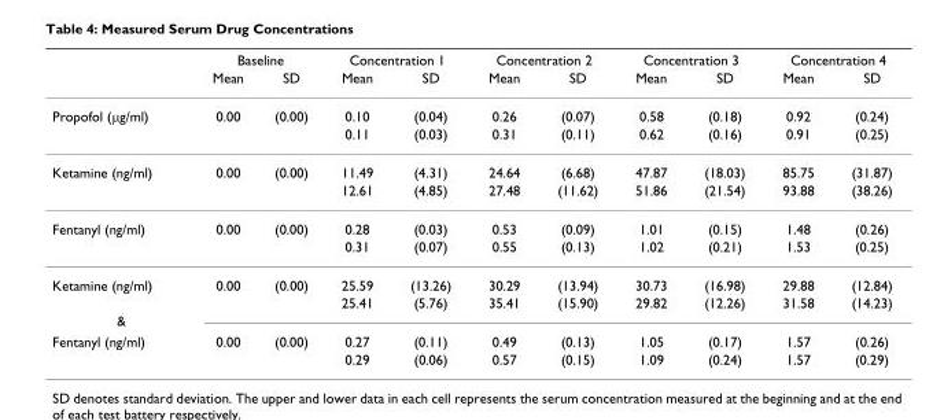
<table><thead><tr><td rowspan="2"></td><td colspan="2">Baseline</td><td colspan="2">Concentration 1</td><td colspan="2">Concentration 2</td><td colspan="2">Concentration 3</td><td colspan="2">Concentration 4</td></tr><tr><td>Mean</td><td>SD</td><td>Mean</td><td>SD</td><td>Mean</td><td>SD</td><td>Mean</td><td>SD</td><td>Mean</td><td>SD</td></tr></thead><tbody><tr><td rowspan="2">Propofol (µg/ml)</td><td>0.00</td><td>(0.00)</td><td>0.10</td><td>(0.04)</td><td>0.26</td><td>(0.07)</td><td>0.58</td><td>(0.18)</td><td>0.92</td><td>(0.24)</td></tr><tr><td></td><td></td><td>0.11</td><td>(0.03)</td><td>0.31</td><td>(0.11)</td><td>0.62</td><td>(0.16)</td><td>0.91</td><td>(0.25)</td></tr><tr><td rowspan="2">Ketamine (ng/ml)</td><td>0.00</td><td>(0.00)</td><td>11.49</td><td>(4.31)</td><td>24.64</td><td>(6.68)</td><td>47.87</td><td>(18.03)</td><td>85.75</td><td>(31.87)</td></tr><tr><td></td><td></td><td>12.61</td><td>(4.85)</td><td>27.48</td><td>(11.62)</td><td>51.86</td><td>(21.54)</td><td>93.88</td><td>(38.26)</td></tr><tr><td rowspan="2">Fentanyl (ng/ml)</td><td>0.00</td><td>(0.00)</td><td>0.28</td><td>(0.03)</td><td>0.53</td><td>(0.09)</td><td>1.01</td><td>(0.15)</td><td>1.48</td><td>(0.26)</td></tr><tr><td></td><td></td><td>0.31</td><td>(0.07)</td><td>0.55</td><td>(0.13)</td><td>1.02</td><td>(0.21)</td><td>1.53</td><td>(0.25)</td></tr><tr><td rowspan="2">Ketamine (ng/ml)</td><td>0.00</td><td>(0.00)</td><td>25.59</td><td>(13.26)</td><td>30.29</td><td>(13.94)</td><td>30.73</td><td>(16.98)</td><td>29.88</td><td>(12.84)</td></tr><tr><td></td><td></td><td>25.41</td><td>(5.76)</td><td>35.41</td><td>(15.90)</td><td>29.82</td><td>(12.26)</td><td>31.58</td><td>(14.23)</td></tr><tr><td colspan="11">&amp;</td></tr><tr><td rowspan="2">Fentanyl (ng/ml)</td><td>0.00</td><td>(0.00)</td><td>0.27</td><td>(0.11)</td><td>0.49</td><td>(0.13)</td><td>1.05</td><td>(0.17)</td><td>1.57</td><td>(0.26)</td></tr><tr><td></td><td></td><td>0.29</td><td>(0.06)</td><td>0.57</td><td>(0.15)</td><td>1.09</td><td>(0.24)</td><td>1.57</td><td>(0.29)</td></tr></tbody></table>